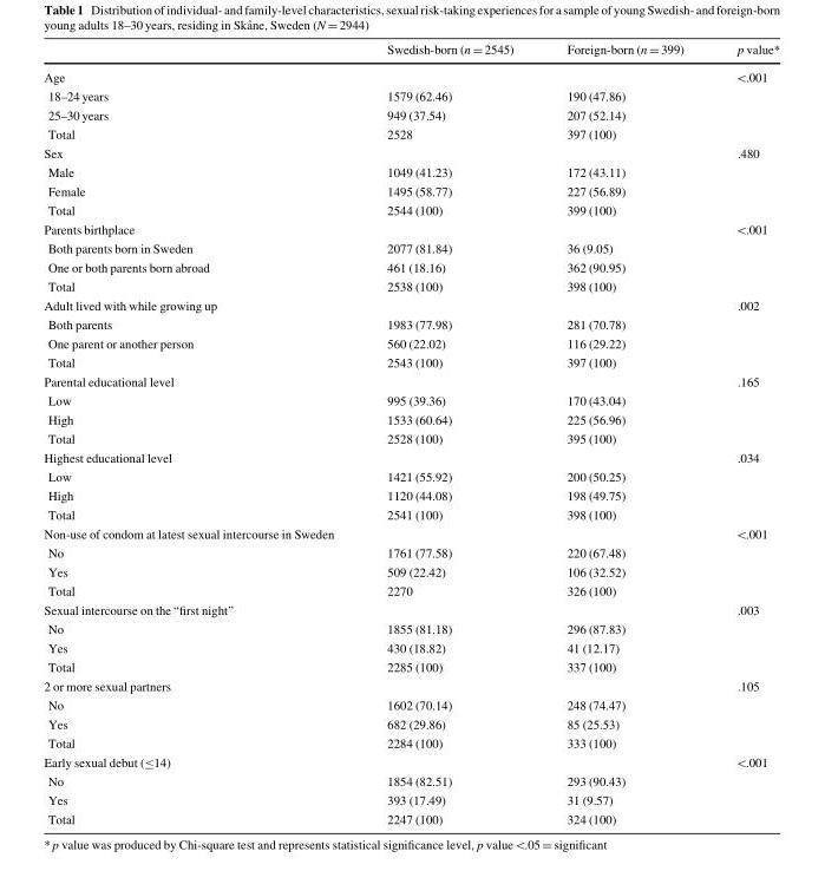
<table><thead><tr><td></td><td>Swedish-born (n = 2545)</td><td>Foreign-born (n = 399)</td><td>p value*</td></tr></thead><tbody><tr><td>Age</td><td></td><td></td><td>&lt;.001</td></tr><tr><td>18–24 years</td><td>1579 (62.46)</td><td>190 (47.86)</td><td></td></tr><tr><td>25–30 years</td><td>949 (37.54)</td><td>207 (52.14)</td><td></td></tr><tr><td>Total</td><td>2528</td><td>397 (100)</td><td></td></tr><tr><td>Sex</td><td></td><td></td><td>.480</td></tr><tr><td>Male</td><td>1049 (41.23)</td><td>172 (43.11)</td><td></td></tr><tr><td>Female</td><td>1495 (58.77)</td><td>227 (56.89)</td><td></td></tr><tr><td>Total</td><td>2544 (100)</td><td>399 (100)</td><td></td></tr><tr><td>Parents birthplace</td><td></td><td></td><td>&lt;.001</td></tr><tr><td>Both parents born in Sweden</td><td>2077 (81.84)</td><td>36 (9.05)</td><td></td></tr><tr><td>One or both parents born abroad</td><td>461 (18.16)</td><td>362 (90.95)</td><td></td></tr><tr><td>Total</td><td>2538 (100)</td><td>398 (100)</td><td></td></tr><tr><td>Adult lived with while growing up</td><td></td><td></td><td>.002</td></tr><tr><td>Both parents</td><td>1983 (77.98)</td><td>281 (70.78)</td><td></td></tr><tr><td>One parent or another person</td><td>560 (22.02)</td><td>116 (29.22)</td><td></td></tr><tr><td>Total</td><td>2543 (100)</td><td>397 (100)</td><td></td></tr><tr><td>Parental educational level</td><td></td><td></td><td>.165</td></tr><tr><td>Low</td><td>995 (39.36)</td><td>170 (43.04)</td><td></td></tr><tr><td>High</td><td>1533 (60.64)</td><td>225 (56.96)</td><td></td></tr><tr><td>Total</td><td>2528 (100)</td><td>395 (100)</td><td></td></tr><tr><td>Highest educational level</td><td></td><td></td><td>.034</td></tr><tr><td>Low</td><td>1421 (55.92)</td><td>200 (50.25)</td><td></td></tr><tr><td>High</td><td>1120 (44.08)</td><td>198 (49.75)</td><td></td></tr><tr><td>Total</td><td>2541 (100)</td><td>398 (100)</td><td></td></tr><tr><td>Non-use of condom at latest sexual intercourse in Sweden</td><td></td><td></td><td>&lt;.001</td></tr><tr><td>No</td><td>1761 (77.58)</td><td>220 (67.48)</td><td></td></tr><tr><td>Yes</td><td>509 (22.42)</td><td>106 (32.52)</td><td></td></tr><tr><td>Total</td><td>2270</td><td>326 (100)</td><td></td></tr><tr><td>Sexual intercourse on the‘‘first night’’</td><td></td><td></td><td>.003</td></tr><tr><td>No</td><td>1855 (81.18)</td><td>296 (87.83)</td><td></td></tr><tr><td>Yes</td><td>430 (18.82)</td><td>41 (12.17)</td><td></td></tr><tr><td>Total</td><td>2285 (100)</td><td>337 (100)</td><td></td></tr><tr><td>2 or more sexual partners</td><td></td><td></td><td>.105</td></tr><tr><td>No</td><td>1602 (70.14)</td><td>248 (74.47)</td><td></td></tr><tr><td>Yes</td><td>682 (29.86)</td><td>85 (25.53)</td><td></td></tr><tr><td>Total</td><td>2284 (100)</td><td>333 (100)</td><td></td></tr><tr><td>Early sexual debut (≤14)</td><td></td><td></td><td>&lt;.001</td></tr><tr><td>No</td><td>1854 (82.51)</td><td>293 (90.43)</td><td></td></tr><tr><td>Yes</td><td>393 (17.49)</td><td>31 (9.57)</td><td></td></tr><tr><td>Total</td><td>2247 (100)</td><td>324 (100)</td><td></td></tr></tbody></table>